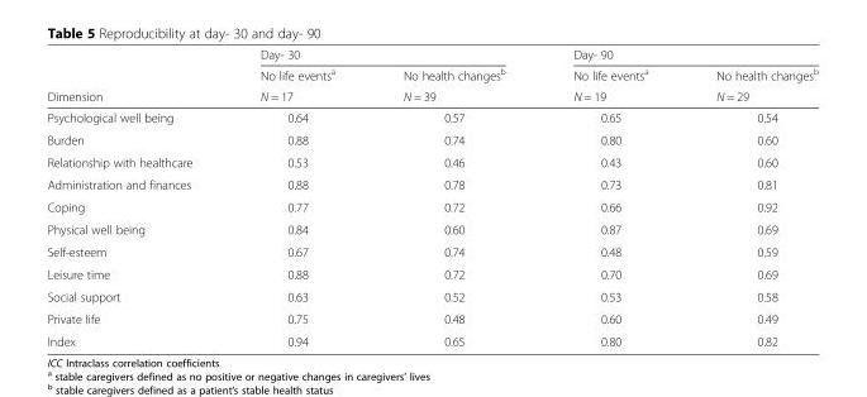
<table><thead><tr><td rowspan="3">Dimension</td><td colspan="2">Day- 30</td><td colspan="2">Day- 90</td></tr><tr><td rowspan="2">No life events<sup>a</sup> N = 17</td><td rowspan="2">No health changes<sup>b</sup> N = 39</td><td rowspan="2">No life events<sup>a</sup> N = 19</td><td rowspan="2">No health changes<sup>b</sup> N = 29</td></tr><tr></tr></thead><tbody><tr><td>Psychological well being</td><td>0.64</td><td>0.57</td><td>0.65</td><td>0.54</td></tr><tr><td>Burden</td><td>0.88</td><td>0.74</td><td>0.80</td><td>0.60</td></tr><tr><td>Relationship with healthcare</td><td>0.53</td><td>0.46</td><td>0.43</td><td>0.60</td></tr><tr><td>Administration and finances</td><td>0.88</td><td>0.78</td><td>0.73</td><td>0.81</td></tr><tr><td>Coping</td><td>0.77</td><td>0.72</td><td>0.66</td><td>0.92</td></tr><tr><td>Physical well being</td><td>0.84</td><td>0.60</td><td>0.87</td><td>0.69</td></tr><tr><td>Self-esteem</td><td>0.67</td><td>0.74</td><td>0.48</td><td>0.59</td></tr><tr><td>Leisure time</td><td>0.88</td><td>0.72</td><td>0.70</td><td>0.69</td></tr><tr><td>Social support</td><td>0.63</td><td>0.52</td><td>0.53</td><td>0.58</td></tr><tr><td>Private life</td><td>0.75</td><td>0.48</td><td>0.60</td><td>0.49</td></tr><tr><td>Index</td><td>0.94</td><td>0.65</td><td>0.80</td><td>0.82</td></tr></tbody></table>